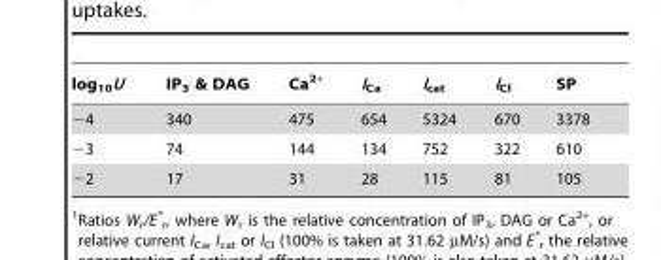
<table><thead><tr><td>log<sub>10</sub>U</td><td>IP<sub>3</sub> &amp; DAG</td><td>Ca<sup>2+</sup></td><td>I<sub>Ca</sub></td><td>I<sub>cat</sub></td><td>I<sub>Cl</sub></td><td>SP</td></tr></thead><tbody><tr><td>−4</td><td>340</td><td>475</td><td>654</td><td>5324</td><td>670</td><td>3378</td></tr><tr><td>−3</td><td>74</td><td>144</td><td>134</td><td>752</td><td>322</td><td>610</td></tr><tr><td>−2</td><td>17</td><td>31</td><td>28</td><td>115</td><td>81</td><td>105</td></tr></tbody></table>